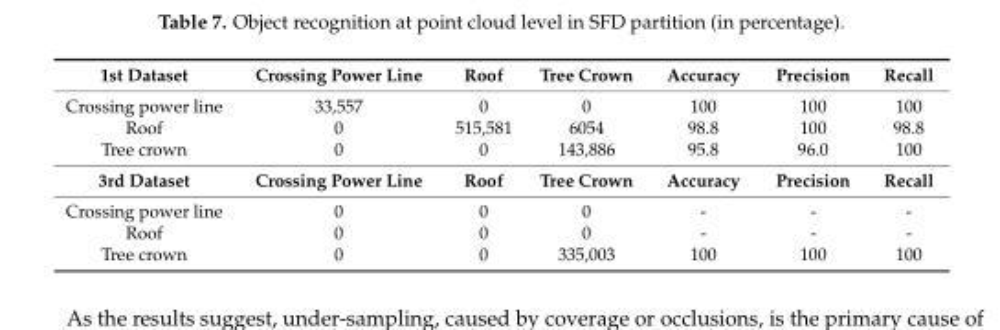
<table><tbody><tr><td>1st Dataset</td><td>Crossing Power Line</td><td>Roof</td><td>Tree Crown</td><td>Accuracy</td><td>Precision</td><td>Recall</td></tr><tr><td>Crossing power line</td><td>33,557</td><td>0</td><td>0</td><td>100</td><td>100</td><td>100</td></tr><tr><td>Roof</td><td>0</td><td>515,581</td><td>6054</td><td>98.8</td><td>100</td><td>98.8</td></tr><tr><td>Tree crown</td><td>0</td><td>0</td><td>143,886</td><td>95.8</td><td>96.0</td><td>100</td></tr><tr><td>3rd Dataset</td><td>Crossing Power Line</td><td>Roof</td><td>Tree Crown</td><td>Accuracy</td><td>Precision</td><td>Recall</td></tr><tr><td>Crossing power line</td><td>0</td><td>0</td><td>0</td><td>-</td><td>-</td><td>-</td></tr><tr><td>Roof</td><td>0</td><td>0</td><td>0</td><td>-</td><td>-</td><td>-</td></tr><tr><td>Tree crown</td><td>0</td><td>0</td><td>335,003</td><td>100</td><td>100</td><td>100</td></tr></tbody></table>